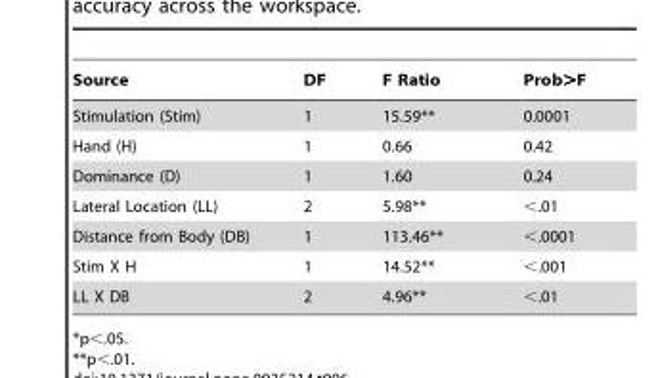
<table><thead><tr><td>Source</td><td>DF</td><td>F Ratio</td><td>Prob&gt;F</td></tr></thead><tbody><tr><td>Stimulation (Stim)</td><td>1</td><td>15.59**</td><td>0.0001</td></tr><tr><td>Hand (H)</td><td>1</td><td>0.66</td><td>0.42</td></tr><tr><td>Dominance (D)</td><td>1</td><td>1.60</td><td>0.24</td></tr><tr><td>Lateral Location (LL)</td><td>2</td><td>5.98**</td><td>&lt;.01</td></tr><tr><td>Distance from Body (DB)</td><td>1</td><td>113.46**</td><td>&lt;.0001</td></tr><tr><td>Stim X H</td><td>1</td><td>14.52**</td><td>&lt;.001</td></tr><tr><td>LL X DB</td><td>2</td><td>4.96**</td><td>&lt;.01</td></tr></tbody></table>